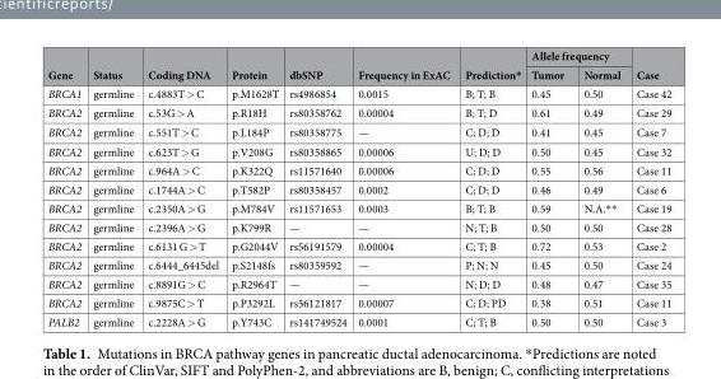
<table><thead><tr><td rowspan="2">Gene</td><td rowspan="2">Status</td><td rowspan="2">Coding DNA</td><td rowspan="2">Protein</td><td rowspan="2">dbSNP</td><td rowspan="2">Frequency in ExAC</td><td rowspan="2">Prediction*</td><td colspan="2">Allele frequency</td><td rowspan="2">Case</td></tr><tr><td>Tumor</td><td>Normal</td></tr></thead><tbody><tr><td>BRCA1</td><td>germline</td><td>c.4883T &gt; C</td><td>p.M1628T</td><td>rs4986854</td><td>0.0015</td><td>B; T; B</td><td>0.45</td><td>0.50</td><td>Case 42</td></tr><tr><td>BRCA2</td><td>germline</td><td>c.53G &gt; A</td><td>p.R18H</td><td>rs80358762</td><td>0.00004</td><td>B; T; D</td><td>0.61</td><td>0.49</td><td>Case 29</td></tr><tr><td>BRCA2</td><td>germline</td><td>c.551T &gt; C</td><td>p.L184P</td><td>rs80358775</td><td>—</td><td>C; D; D</td><td>0.41</td><td>0.45</td><td>Case 7</td></tr><tr><td>BRCA2</td><td>germline</td><td>c.623T &gt; G</td><td>p.V208G</td><td>rs80358865</td><td>0.00006</td><td>U; D; D</td><td>0.50</td><td>0.45</td><td>Case 32</td></tr><tr><td>BRCA2</td><td>germline</td><td>c.964A &gt; C</td><td>p.K322Q</td><td>rs11571640</td><td>0.00006</td><td>C; D; D</td><td>0.55</td><td>0.56</td><td>Case 11</td></tr><tr><td>BRCA2</td><td>germline</td><td>c.1744A &gt; C</td><td>p.T582P</td><td>rs80358457</td><td>0.0002</td><td>C; D; D</td><td>0.46</td><td>0.49</td><td>Case 6</td></tr><tr><td>BRCA2</td><td>germline</td><td>c.2350A &gt; G</td><td>p.M784V</td><td>rs11571653</td><td>0.0003</td><td>B; T; B</td><td>0.59</td><td>N.A.**</td><td>Case 19</td></tr><tr><td>BRCA2</td><td>germline</td><td>c.2396A &gt; G</td><td>p.K799R</td><td>—</td><td>—</td><td>N; T; B</td><td>0.50</td><td>0.50</td><td>Case 28</td></tr><tr><td>BRCA2</td><td>germline</td><td>c.6131 G &gt; T</td><td>p.G2044V</td><td>rs56191579</td><td>0.00004</td><td>C; T; B</td><td>0.72</td><td>0.53</td><td>Case 2</td></tr><tr><td>BRCA2</td><td>germline</td><td>c.6444_6445del</td><td>p.S2148fs</td><td>rs80359592</td><td>—</td><td>P; N; N</td><td>0.45</td><td>0.50</td><td>Case 24</td></tr><tr><td>BRCA2</td><td>germline</td><td>c.8891G &gt; C</td><td>p.R2964T</td><td>—</td><td>—</td><td>N; D; D</td><td>0.48</td><td>0.47</td><td>Case 35</td></tr><tr><td>BRCA2</td><td>germline</td><td>c.9875C &gt; T</td><td>p.P3292L</td><td>rs56121817</td><td>0.00007</td><td>C; D; PD</td><td>0.38</td><td>0.51</td><td>Case 11</td></tr><tr><td>PALB2</td><td>germline</td><td>c.2228A &gt; G</td><td>p.Y743C</td><td>rs141749524</td><td>0.0001</td><td>C; T; B</td><td>0.50</td><td>0.50</td><td>Case 3</td></tr></tbody></table>